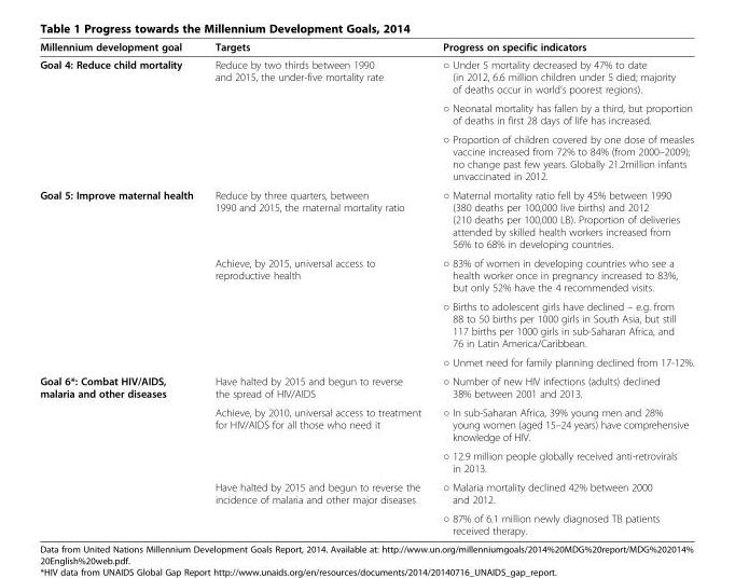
<table><thead><tr><td>Millennium development goal</td><td>Targets</td><td>Progress on specific indicators</td></tr></thead><tbody><tr><td rowspan="3">Goal 4: Reduce child mortality</td><td rowspan="3">Reduce by two thirds between 1990 and 2015, the under-five mortality rate</td><td>○ Under 5 mortality decreased by 47% to date (in 2012, 6.6 million children under 5 died; majority of deaths occur in world’s poorest regions).</td></tr><tr><td>○ Neonatal mortality has fallen by a third, but proportion of deaths in first 28 days of life has increased.</td></tr><tr><td>○ Proportion of children covered by one dose of measles vaccine increased from 72% to 84% (from 2000–2009); no change past few years. Globally 21.2million infants unvaccinated in 2012.</td></tr><tr><td rowspan="4">Goal 5: Improve maternal health</td><td>Reduce by three quarters, between 1990 and 2015, the maternal mortality ratio</td><td>○ Maternal mortality ratio fell by 45% between 1990 (380 deaths per 100,000 live births) and 2012 (210 deaths per 100,000 LB). Proportion of deliveries attended by skilled health workers increased from 56% to 68% in developing countries.</td></tr><tr><td>Achieve, by 2015, universal access to reproductive health</td><td>○ 83% of women in developing countries who see a health worker once in pregnancy increased to 83%, but only 52% have the 4 recommended visits.</td></tr><tr><td rowspan="2"></td><td>○ Births to adolescent girls have declined – e.g. from 88 to 50 births per 1000 girls in South Asia, but still 117 births per 1000 girls in sub-Saharan Africa, and 76 in Latin America/Caribbean.</td></tr><tr><td>○ Unmet need for family planning declined from 17-12%.</td></tr><tr><td rowspan="5">Goal 6*: Combat HIV/AIDS, malaria and other diseases</td><td>Have halted by 2015 and begun to reverse the spread of HIV/AIDS</td><td>○ Number of new HIV infections (adults) declined 38% between 2001 and 2013.</td></tr><tr><td rowspan="2">Achieve, by 2010, universal access to treatment for HIV/AIDS for all those who need it</td><td>○ In sub-Saharan Africa, 39% young men and 28% young women (aged 15–24 years) have comprehensive knowledge of HIV.</td></tr><tr><td>○ 12.9 million people globally received anti-retrovirals in 2013.</td></tr><tr><td rowspan="2">Have halted by 2015 and begun to reverse the incidence of malaria and other major diseases</td><td>○ Malaria mortality declined 42% between 2000 and 2012.</td></tr><tr><td>○ 87% of 6.1 million newly diagnosed TB patients received therapy.</td></tr></tbody></table>